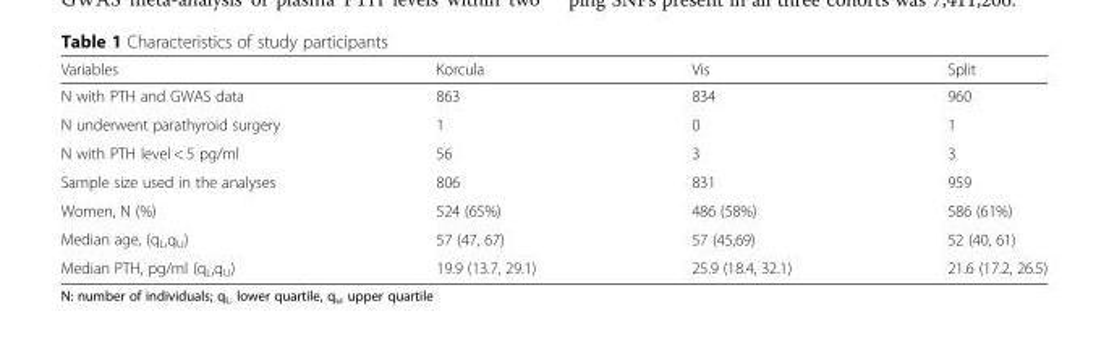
<table><thead><tr><td>Variables</td><td>Korcula</td><td>Vis</td><td>Split</td></tr></thead><tbody><tr><td>N with PTH and GWAS data</td><td>863</td><td>834</td><td>960</td></tr><tr><td>N underwent parathyroid surgery</td><td>1</td><td>0</td><td>1</td></tr><tr><td>N with PTH level &lt; 5 pg/ml</td><td>56</td><td>3</td><td>3</td></tr><tr><td>Sample size used in the analyses</td><td>806</td><td>831</td><td>959</td></tr><tr><td>Women, N (%)</td><td>524 (65%)</td><td>486 (58%)</td><td>586 (61%)</td></tr><tr><td>Median age, (q<sub>L</sub>,q<sub>U</sub>)</td><td>57 (47, 67)</td><td>57 (45,69)</td><td>52 (40, 61)</td></tr><tr><td>Median PTH, pg/ml (q<sub>L</sub>,q<sub>U</sub>)</td><td>19.9 (13.7, 29.1)</td><td>25.9 (18.4, 32.1)</td><td>21.6 (17.2, 26.5)</td></tr></tbody></table>